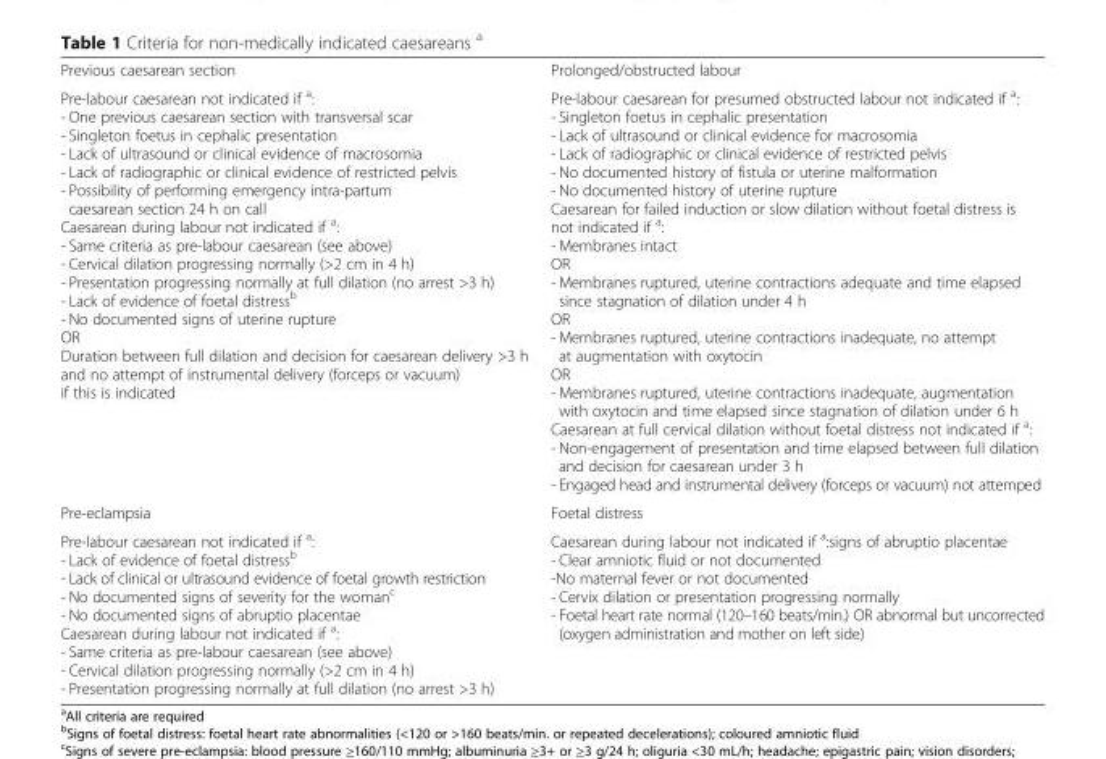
<table><tbody><tr><td>Previous caesarean section</td><td>Prolonged/obstructed labour</td></tr><tr><td>Pre-labour caesarean not indicated if <sup>a</sup>: - One previous caesarean section with transversal scar - Singleton foetus in cephalic presentation - Lack of ultrasound or clinical evidence of macrosomia - Lack of radiographic or clinical evidence of restricted pelvis - Possibility of performing emergency intra-partum caesarean section 24 h on call Caesarean during labour not indicated if <sup>a</sup>: - Same criteria as pre-labour caesarean (see above) - Cervical dilation progressing normally (&gt;2 cm in 4 h) - Presentation progressing normally at full dilation (no arrest &gt;3 h) - Lack of evidence of foetal distress<sup>b</sup> - No documented signs of uterine rupture OR Duration between full dilation and decision for caesarean delivery &gt;3 h and no attempt of instrumental delivery (forceps or vacuum) if this is indicated</td><td>Pre-labour caesarean for presumed obstructed labour not indicated if <sup>a</sup>: - Singleton foetus in cephalic presentation - Lack of ultrasound or clinical evidence for macrosomia - Lack of radiographic or clinical evidence of restricted pelvis - No documented history of fistula or uterine malformation - No documented history of uterine rupture Caesarean for failed induction or slow dilation without foetal distress is not indicated if <sup>a</sup>: - Membranes intact OR - Membranes ruptured, uterine contractions adequate and time elapsed since stagnation of dilation under 4 h OR - Membranes ruptured, uterine contractions inadequate, no attempt at augmentation with oxytocin OR - Membranes ruptured, uterine contractions inadequate, augmentation with oxytocin and time elapsed since stagnation of dilation under 6 h Caesarean at full cervical dilation without foetal distress not indicated if <sup>a</sup>: - Non-engagement of presentation and time elapsed between full dilation and decision for caesarean under 3 h - Engaged head and instrumental delivery (forceps or vacuum) not attemped</td></tr><tr><td>Pre-eclampsia</td><td>Foetal distress</td></tr><tr><td>Pre-labour caesarean not indicated if <sup>a</sup>: - Lack of evidence of foetal distress<sup>b</sup> - Lack of clinical or ultrasound evidence of foetal growth restriction - No documented signs of severity for the woman<sup>c</sup> - No documented signs of abruptio placentae Caesarean during labour not indicated if <sup>a</sup>: - Same criteria as pre-labour caesarean (see above) - Cervical dilation progressing normally (&gt;2 cm in 4 h) - Presentation progressing normally at full dilation (no arrest &gt;3 h)</td><td>Caesarean during labour not indicated if <sup>a</sup>:signs of abruptio placentae - Clear amniotic fluid or not documented -No maternal fever or not documented - Cervix dilation or presentation progressing normally - Foetal heart rate normal (120–160 beats/min.) OR abnormal but uncorrected (oxygen administration and mother on left side)</td></tr></tbody></table>